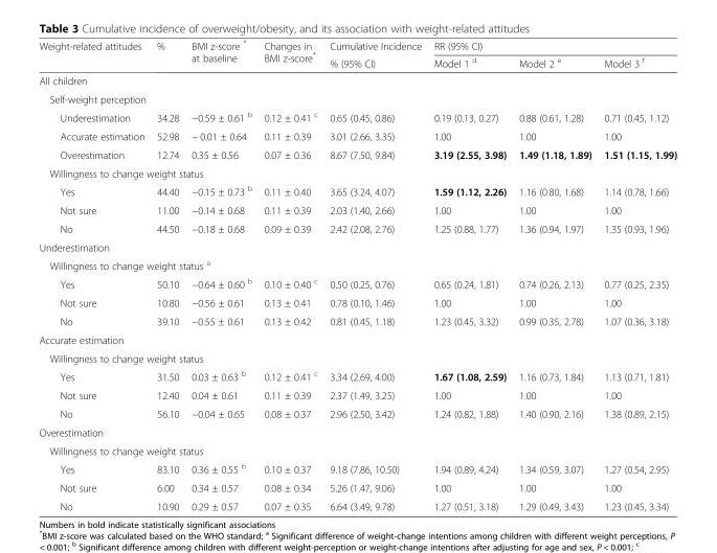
<table><thead><tr><td rowspan="2">Weight-related attitudes</td><td rowspan="2">%</td><td rowspan="2">BMI z-score * at baseline</td><td rowspan="2">Changes in BMI z-score*</td><td rowspan="2">Cumulative Incidence % (95% CI)</td><td colspan="3">RR (95% CI)</td></tr><tr><td>Model 1 <sup>d</sup></td><td>Model 2 <sup>e</sup></td><td>Model 3 <sup>f</sup></td></tr></thead><tbody><tr><td colspan="8">All children</td></tr><tr><td colspan="8">Self-weight perception</td></tr><tr><td>Underestimation</td><td>34.28</td><td>−0.59 ± 0.61 <sup>b</sup></td><td>0.12 ± 0.41 <sup>c</sup></td><td>0.65 (0.45, 0.86)</td><td>0.19 (0.13, 0.27)</td><td>0.88 (0.61, 1.28)</td><td>0.71 (0.45, 1.12)</td></tr><tr><td>Accurate estimation</td><td>52.98</td><td>− 0.01 ± 0.64</td><td>0.11 ± 0.39</td><td>3.01 (2.66, 3.35)</td><td>1.00</td><td>1.00</td><td>1.00</td></tr><tr><td>Overestimation</td><td>12.74</td><td>0.35 ± 0.56</td><td>0.07 ± 0.36</td><td>8.67 (7.50, 9.84)</td><td>3.19 (2.55, 3.98)</td><td>1.49 (1.18, 1.89)</td><td>1.51 (1.15, 1.99)</td></tr><tr><td colspan="8">Willingness to change weight status</td></tr><tr><td>Yes</td><td>44.40</td><td>−0.15 ± 0.73 <sup>b</sup></td><td>0.11 ± 0.40</td><td>3.65 (3.24, 4.07)</td><td>1.59 (1.12, 2.26)</td><td>1.16 (0.80, 1.68)</td><td>1.14 (0.78, 1.66)</td></tr><tr><td>Not sure</td><td>11.00</td><td>−0.14 ± 0.68</td><td>0.11 ± 0.39</td><td>2.03 (1.40, 2.66)</td><td>1.00</td><td>1.00</td><td>1.00</td></tr><tr><td>No</td><td>44.50</td><td>−0.18 ± 0.68</td><td>0.09 ± 0.39</td><td>2.42 (2.08, 2.76)</td><td>1.25 (0.88, 1.77)</td><td>1.36 (0.94, 1.97)</td><td>1.35 (0.93, 1.96)</td></tr><tr><td colspan="8">Underestimation</td></tr><tr><td colspan="8">Willingness to change weight status <sup>a</sup></td></tr><tr><td>Yes</td><td>50.10</td><td>−0.64 ± 0.60 <sup>b</sup></td><td>0.10 ± 0.40 <sup>c</sup></td><td>0.50 (0.25, 0.76)</td><td>0.65 (0.24, 1.81)</td><td>0.74 (0.26, 2.13)</td><td>0.77 (0.25, 2.35)</td></tr><tr><td>Not sure</td><td>10.80</td><td>−0.56 ± 0.61</td><td>0.13 ± 0.41</td><td>0.78 (0.10, 1.46)</td><td>1.00</td><td>1.00</td><td>1.00</td></tr><tr><td>No</td><td>39.10</td><td>−0.55 ± 0.61</td><td>0.13 ± 0.42</td><td>0.81 (0.45, 1.18)</td><td>1.23 (0.45, 3.32)</td><td>0.99 (0.35, 2.78)</td><td>1.07 (0.36, 3.18)</td></tr><tr><td colspan="8">Accurate estimation</td></tr><tr><td colspan="8">Willingness to change weight status</td></tr><tr><td>Yes</td><td>31.50</td><td>0.03 ± 0.63 <sup>b</sup></td><td>0.12 ± 0.41 <sup>c</sup></td><td>3.34 (2.69, 4.00)</td><td>1.67 (1.08, 2.59)</td><td>1.16 (0.73, 1.84)</td><td>1.13 (0.71, 1.81)</td></tr><tr><td>Not sure</td><td>12.40</td><td>0.04 ± 0.61</td><td>0.11 ± 0.39</td><td>2.37 (1.49, 3.25)</td><td>1.00</td><td>1.00</td><td>1.00</td></tr><tr><td>No</td><td>56.10</td><td>−0.04 ± 0.65</td><td>0.08 ± 0.37</td><td>2.96 (2.50, 3.42)</td><td>1.24 (0.82, 1.88)</td><td>1.40 (0.90, 2.16)</td><td>1.38 (0.89, 2.15)</td></tr><tr><td colspan="8">Overestimation</td></tr><tr><td colspan="8">Willingness to change weight status</td></tr><tr><td>Yes</td><td>83.10</td><td>0.36 ± 0.55 <sup>b</sup></td><td>0.10 ± 0.37</td><td>9.18 (7.86, 10.50)</td><td>1.94 (0.89, 4.24)</td><td>1.34 (0.59, 3.07)</td><td>1.27 (0.54, 2.95)</td></tr><tr><td>Not sure</td><td>6.00</td><td>0.34 ± 0.57</td><td>0.08 ± 0.34</td><td>5.26 (1.47, 9.06)</td><td>1.00</td><td>1.00</td><td>1.00</td></tr><tr><td>No</td><td>10.90</td><td>0.29 ± 0.57</td><td>0.07 ± 0.35</td><td>6.64 (3.49, 9.78)</td><td>1.27 (0.51, 3.18)</td><td>1.29 (0.49, 3.43)</td><td>1.23 (0.45, 3.34)</td></tr></tbody></table>